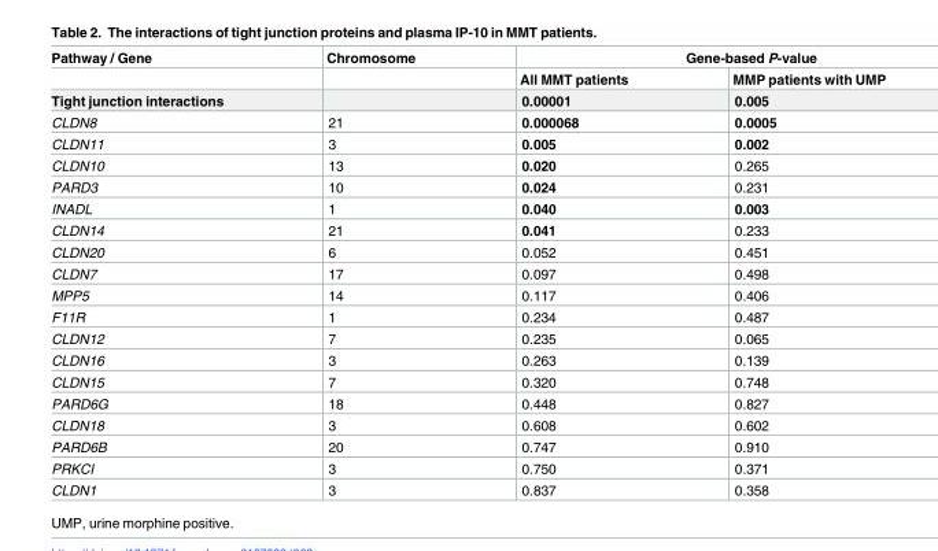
<table><thead><tr><td rowspan="2">Pathway / Gene</td><td rowspan="2">Chromosome</td><td colspan="2">Gene-based P-value</td></tr><tr><td>All MMT patients</td><td>MMP patients with UMP</td></tr></thead><tbody><tr><td>Tight junction interactions</td><td></td><td>0.00001</td><td>0.005</td></tr><tr><td>CLDN8</td><td>21</td><td>0.000068</td><td>0.0005</td></tr><tr><td>CLDN11</td><td>3</td><td>0.005</td><td>0.002</td></tr><tr><td>CLDN10</td><td>13</td><td>0.020</td><td>0.265</td></tr><tr><td>PARD3</td><td>10</td><td>0.024</td><td>0.231</td></tr><tr><td>INADL</td><td>1</td><td>0.040</td><td>0.003</td></tr><tr><td>CLDN14</td><td>21</td><td>0.041</td><td>0.233</td></tr><tr><td>CLDN20</td><td>6</td><td>0.052</td><td>0.451</td></tr><tr><td>CLDN7</td><td>17</td><td>0.097</td><td>0.498</td></tr><tr><td>MPP5</td><td>14</td><td>0.117</td><td>0.406</td></tr><tr><td>F11R</td><td>1</td><td>0.234</td><td>0.487</td></tr><tr><td>CLDN12</td><td>7</td><td>0.235</td><td>0.065</td></tr><tr><td>CLDN16</td><td>3</td><td>0.263</td><td>0.139</td></tr><tr><td>CLDN15</td><td>7</td><td>0.320</td><td>0.748</td></tr><tr><td>PARD6G</td><td>18</td><td>0.448</td><td>0.827</td></tr><tr><td>CLDN18</td><td>3</td><td>0.608</td><td>0.602</td></tr><tr><td>PARD6B</td><td>20</td><td>0.747</td><td>0.910</td></tr><tr><td>PRKCI</td><td>3</td><td>0.750</td><td>0.371</td></tr><tr><td>CLDN1</td><td>3</td><td>0.837</td><td>0.358</td></tr></tbody></table>